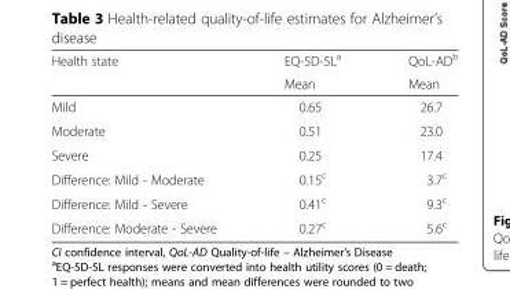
<table><thead><tr><td rowspan="2">Health state</td><td rowspan="2">EQ-5D-5L<sup>a</sup> Mean</td><td rowspan="2">QoL-AD<sup>b</sup> Mean</td></tr><tr></tr></thead><tbody><tr><td>Mild</td><td>0.65</td><td>26.7</td></tr><tr><td>Moderate</td><td>0.51</td><td>23.0</td></tr><tr><td>Severe</td><td>0.25</td><td>17.4</td></tr><tr><td>Difference: Mild - Moderate</td><td>0.15<sup>c</sup></td><td>3.7<sup>c</sup></td></tr><tr><td>Difference: Mild - Severe</td><td>0.41<sup>c</sup></td><td>9.3<sup>c</sup></td></tr><tr><td>Difference: Moderate - Severe</td><td>0.27<sup>c</sup></td><td>5.6<sup>c</sup></td></tr></tbody></table>